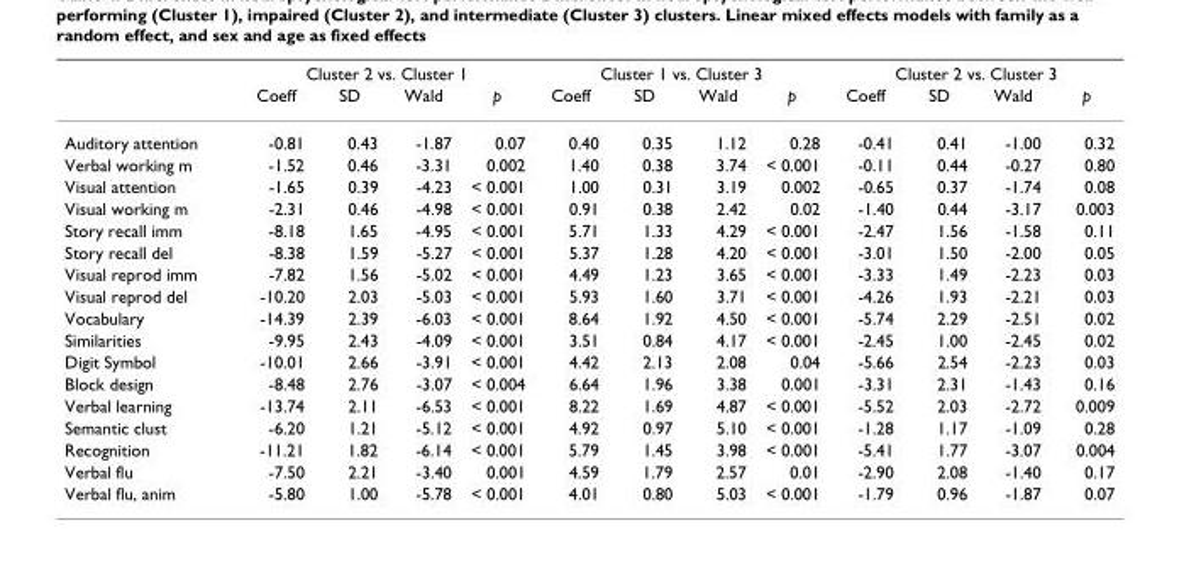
<table><thead><tr><td rowspan="2"></td><td colspan="4">Cluster 2 vs. Cluster 1</td><td colspan="4">Cluster 1 vs. Cluster 3</td><td colspan="4">Cluster 2 vs. Cluster 3</td></tr><tr><td>Coeff</td><td>SD</td><td>Wald</td><td>p</td><td>Coeff</td><td>SD</td><td>Wald</td><td>p</td><td>Coeff</td><td>SD</td><td>Wald</td><td>p</td></tr></thead><tbody><tr><td>Auditory attention</td><td>-0.81</td><td>0.43</td><td>-1.87</td><td>0.07</td><td>0.40</td><td>0.35</td><td>1.12</td><td>0.28</td><td>-0.41</td><td>0.41</td><td>-1.00</td><td>0.32</td></tr><tr><td>Verbal working m</td><td>-1.52</td><td>0.46</td><td>-3.31</td><td>0.002</td><td>1.40</td><td>0.38</td><td>3.74</td><td>&lt; 0.001</td><td>-0.11</td><td>0.44</td><td>-0.27</td><td>0.80</td></tr><tr><td>Visual attention</td><td>-1.65</td><td>0.39</td><td>-4.23</td><td>&lt; 0.001</td><td>1.00</td><td>0.31</td><td>3.19</td><td>0.002</td><td>-0.65</td><td>0.37</td><td>-1.74</td><td>0.08</td></tr><tr><td>Visual working m</td><td>-2.31</td><td>0.46</td><td>-4.98</td><td>&lt; 0.001</td><td>0.91</td><td>0.38</td><td>2.42</td><td>0.02</td><td>-1.40</td><td>0.44</td><td>-3.17</td><td>0.003</td></tr><tr><td>Story recall imm</td><td>-8.18</td><td>1.65</td><td>-4.95</td><td>&lt; 0.001</td><td>5.71</td><td>1.33</td><td>4.29</td><td>&lt; 0.001</td><td>-2.47</td><td>1.56</td><td>-1.58</td><td>0.11</td></tr><tr><td>Story recall del</td><td>-8.38</td><td>1.59</td><td>-5.27</td><td>&lt; 0.001</td><td>5.37</td><td>1.28</td><td>4.20</td><td>&lt; 0.001</td><td>-3.01</td><td>1.50</td><td>-2.00</td><td>0.05</td></tr><tr><td>Visual reprod imm</td><td>-7.82</td><td>1.56</td><td>-5.02</td><td>&lt; 0.001</td><td>4.49</td><td>1.23</td><td>3.65</td><td>&lt; 0.001</td><td>-3.33</td><td>1.49</td><td>-2.23</td><td>0.03</td></tr><tr><td>Visual reprod del</td><td>-10.20</td><td>2.03</td><td>-5.03</td><td>&lt; 0.001</td><td>5.93</td><td>1.60</td><td>3.71</td><td>&lt; 0.001</td><td>-4.26</td><td>1.93</td><td>-2.21</td><td>0.03</td></tr><tr><td>Vocabulary</td><td>-14.39</td><td>2.39</td><td>-6.03</td><td>&lt; 0.001</td><td>8.64</td><td>1.92</td><td>4.50</td><td>&lt; 0.001</td><td>-5.74</td><td>2.29</td><td>-2.51</td><td>0.02</td></tr><tr><td>Similarities</td><td>-9.95</td><td>2.43</td><td>-4.09</td><td>&lt; 0.001</td><td>3.51</td><td>0.84</td><td>4.17</td><td>&lt; 0.001</td><td>-2.45</td><td>1.00</td><td>-2.45</td><td>0.02</td></tr><tr><td>Digit Symbol</td><td>-10.01</td><td>2.66</td><td>-3.91</td><td>&lt; 0.001</td><td>4.42</td><td>2.13</td><td>2.08</td><td>0.04</td><td>-5.66</td><td>2.54</td><td>-2.23</td><td>0.03</td></tr><tr><td>Block design</td><td>-8.48</td><td>2.76</td><td>-3.07</td><td>&lt; 0.004</td><td>6.64</td><td>1.96</td><td>3.38</td><td>0.001</td><td>-3.31</td><td>2.31</td><td>-1.43</td><td>0.16</td></tr><tr><td>Verbal learning</td><td>-13.74</td><td>2.11</td><td>-6.53</td><td>&lt; 0.001</td><td>8.22</td><td>1.69</td><td>4.87</td><td>&lt; 0.001</td><td>-5.52</td><td>2.03</td><td>-2.72</td><td>0.009</td></tr><tr><td>Semantic clust</td><td>-6.20</td><td>1.21</td><td>-5.12</td><td>&lt; 0.001</td><td>4.92</td><td>0.97</td><td>5.10</td><td>&lt; 0.001</td><td>-1.28</td><td>1.17</td><td>-1.09</td><td>0.28</td></tr><tr><td>Recognition</td><td>-11.21</td><td>1.82</td><td>-6.14</td><td>&lt; 0.001</td><td>5.79</td><td>1.45</td><td>3.98</td><td>&lt; 0.001</td><td>-5.41</td><td>1.77</td><td>-3.07</td><td>0.004</td></tr><tr><td>Verbal flu</td><td>-7.50</td><td>2.21</td><td>-3.40</td><td>0.001</td><td>4.59</td><td>1.79</td><td>2.57</td><td>0.01</td><td>-2.90</td><td>2.08</td><td>-1.40</td><td>0.17</td></tr><tr><td>Verbal flu, anim</td><td>-5.80</td><td>1.00</td><td>-5.78</td><td>&lt; 0.001</td><td>4.01</td><td>0.80</td><td>5.03</td><td>&lt; 0.001</td><td>-1.79</td><td>0.96</td><td>-1.87</td><td>0.07</td></tr></tbody></table>